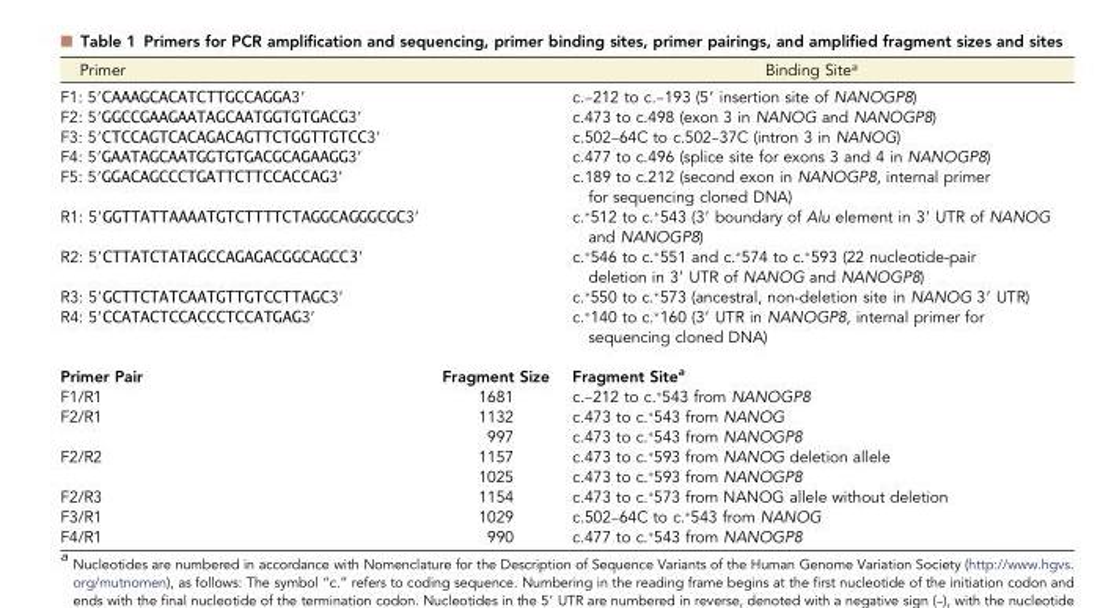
<table><thead><tr><td>Primer</td><td></td><td>Binding Site<sup>a</sup></td></tr></thead><tbody><tr><td>F1: 5′CAAAGCACATCTTGCCAGGA3′</td><td></td><td>c.–212 to c.–193 (5′ insertion site of NANOGP8)</td></tr><tr><td>F2: 5′GGCCGAAGAATAGCAATGGTGTGACG3′</td><td></td><td>c.473 to c.498 (exon 3 in NANOG and NANOGP8)</td></tr><tr><td>F3: 5′CTCCAGTCACAGACAGTTCTGGTTGTCC3′</td><td></td><td>c.502–64C to c.502–37C (intron 3 in NANOG)</td></tr><tr><td>F4: 5′GAATAGCAATGGTGTGACGCAGAAGG3′</td><td></td><td>c.477 to c.496 (splice site for exons 3 and 4 in NANOGP8)</td></tr><tr><td>F5: 5′GGACAGCCCTGATTCTTCCACCAG3′</td><td></td><td>c.189 to c.212 (second exon in NANOGP8, internal primer for sequencing cloned DNA)</td></tr><tr><td>R1: 5′GGTTATTAAAATGTCTTTTCTAGGCAGGGCGC3′</td><td></td><td>c.*512 to c.*543 (3′ boundary of Alu element in 3′ UTR of NANOG and NANOGP8)</td></tr><tr><td>R2: 5′CTTATCTATAGCCAGAGACGGCAGCC3′</td><td></td><td>c.*546 to c.*551 and c.*574 to c.*593 (22 nucleotide-pair deletion in 3′ UTR of NANOG and NANOGP8)</td></tr><tr><td>R3: 5′GCTTCTATCAATGTTGTCCTTAGC3′</td><td></td><td>c.*550 to c.*573 (ancestral, non-deletion site in NANOG 3′ UTR)</td></tr><tr><td>R4: 5′CCATACTCCACCCTCCATGAG3′</td><td></td><td>c.*140 to c.*160 (3′ UTR in NANOGP8, internal primer for sequencing cloned DNA)</td></tr><tr><td>Primer Pair</td><td>Fragment Size</td><td>Fragment Sitea</td></tr><tr><td>F1/R1</td><td>1681</td><td>c.–212 to c.*543 from NANOGP8</td></tr><tr><td rowspan="2">F2/R1</td><td>1132</td><td>c.473 to c.*543 from NANOG</td></tr><tr><td>997</td><td>c.473 to c.*543 from NANOGP8</td></tr><tr><td rowspan="2">F2/R2</td><td>1157</td><td>c.473 to c.*593 from NANOG deletion allele</td></tr><tr><td>1025</td><td>c.473 to c.*593 from NANOGP8</td></tr><tr><td>F2/R3</td><td>1154</td><td>c.473 to c.*573 from NANOG allele without deletion</td></tr><tr><td>F3/R1</td><td>1029</td><td>c.502–64C to c.*543 from NANOG</td></tr><tr><td>F4/R1</td><td>990</td><td>c.477 to c.*543 from NANOGP8</td></tr></tbody></table>